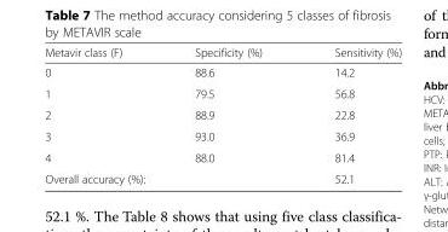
<table><thead><tr><td>Metavir class (F)</td><td>Specificity (%)</td><td>Sensitivity (%)</td></tr></thead><tbody><tr><td>0</td><td>88.6</td><td>14.2</td></tr><tr><td>1</td><td>79.5</td><td>56.8</td></tr><tr><td>2</td><td>88.9</td><td>22.8</td></tr><tr><td>3</td><td>93.0</td><td>36.9</td></tr><tr><td>4</td><td>88.0</td><td>81.4</td></tr><tr><td colspan="2">Overall accuracy (%):</td><td>52.1</td></tr></tbody></table>